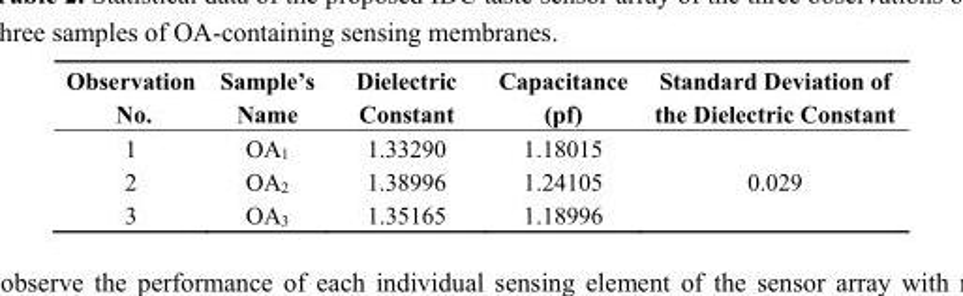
<table><thead><tr><td>Observation No.</td><td>Sample’s Name</td><td>Dielectric Constant</td><td>Capacitance (pf)</td><td>Standard Deviation of the Dielectric Constant</td></tr></thead><tbody><tr><td>1</td><td>OA<sub>1</sub></td><td>1.33290</td><td>1.18015</td><td></td></tr><tr><td>2</td><td>OA<sub>2</sub></td><td>1.38996</td><td>1.24105</td><td>0.029</td></tr><tr><td>3</td><td>OA<sub>3</sub></td><td>1.35165</td><td>1.18996</td><td></td></tr></tbody></table>